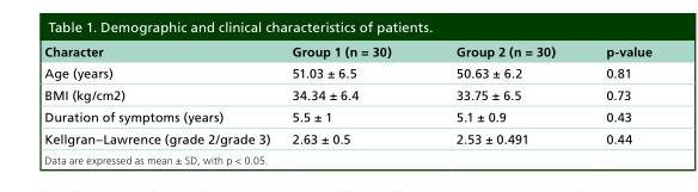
<table><thead><tr><td>Character</td><td>Group 1 (n = 30)</td><td>Group 2 (n = 30)</td><td>p-value</td></tr></thead><tbody><tr><td>Age (years)</td><td>51.03 ± 6.5</td><td>50.63 ± 6.2</td><td>0.81</td></tr><tr><td>BMI (kg/cm2)</td><td>34.34 ± 6.4</td><td>33.75 ± 6.5</td><td>0.73</td></tr><tr><td>Duration of symptoms (years)</td><td>5.5 ± 1</td><td>5.1 ± 0.9</td><td>0.43</td></tr><tr><td>Kellgran–Lawrence (grade 2/grade 3)</td><td>2.63 ± 0.5</td><td>2.53 ± 0.491</td><td>0.44</td></tr></tbody></table>